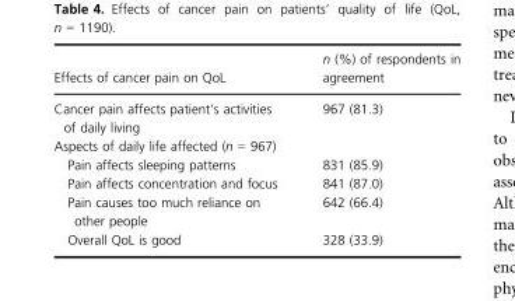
<table><thead><tr><td>Effects of cancer pain on QoL</td><td>n (%) of respondents in agreement</td></tr></thead><tbody><tr><td>Cancer pain affects patient’s activities of daily living</td><td>967 (81.3)</td></tr><tr><td colspan="2">Aspects of daily life affected (n = 967)</td></tr><tr><td>Pain affects sleeping patterns</td><td>831 (85.9)</td></tr><tr><td>Pain affects concentration and focus</td><td>841 (87.0)</td></tr><tr><td>Pain causes too much reliance on other people</td><td>642 (66.4)</td></tr><tr><td>Overall QoL is good</td><td>328 (33.9)</td></tr></tbody></table>